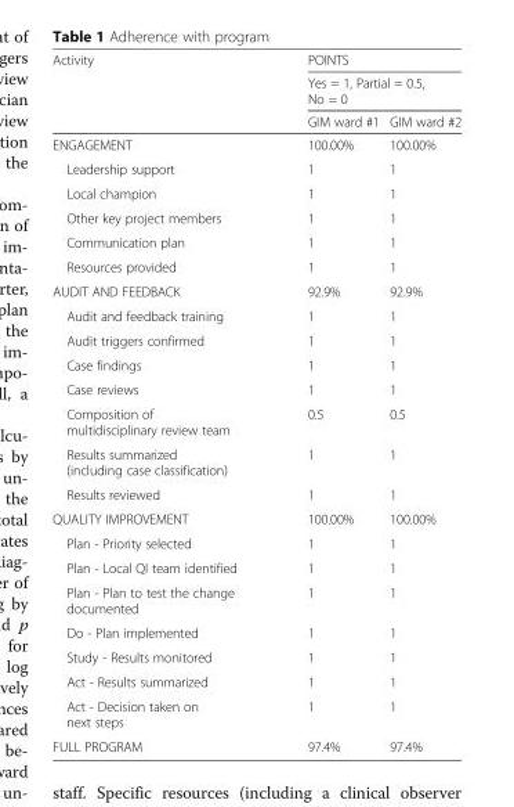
<table><thead><tr><td rowspan="3">Activity</td><td rowspan="2" colspan="2">POINTS Yes = 1, Partial = 0.5, No = 0</td></tr><tr></tr><tr><td>GIM ward #1</td><td>GIM ward #2</td></tr></thead><tbody><tr><td>ENGAGEMENT</td><td>100.00%</td><td>100.00%</td></tr><tr><td>Leadership support</td><td>1</td><td>1</td></tr><tr><td>Local champion</td><td>1</td><td>1</td></tr><tr><td>Other key project members</td><td>1</td><td>1</td></tr><tr><td>Communication plan</td><td>1</td><td>1</td></tr><tr><td>Resources provided</td><td>1</td><td>1</td></tr><tr><td>AUDIT AND FEEDBACK</td><td>92.9%</td><td>92.9%</td></tr><tr><td>Audit and feedback training</td><td>1</td><td>1</td></tr><tr><td>Audit triggers confirmed</td><td>1</td><td>1</td></tr><tr><td>Case findings</td><td>1</td><td>1</td></tr><tr><td>Case reviews</td><td>1</td><td>1</td></tr><tr><td>Composition of multidisciplinary review team</td><td>0.5</td><td>0.5</td></tr><tr><td>Results summarized (including case classification)</td><td>1</td><td>1</td></tr><tr><td>Results reviewed</td><td>1</td><td>1</td></tr><tr><td>QUALITY IMPROVEMENT</td><td>100.00%</td><td>100.00%</td></tr><tr><td>Plan - Priority selected</td><td>1</td><td>1</td></tr><tr><td>Plan - Local QI team identified</td><td>1</td><td>1</td></tr><tr><td>Plan - Plan to test the change documented</td><td>1</td><td>1</td></tr><tr><td>Do - Plan implemented</td><td>1</td><td>1</td></tr><tr><td>Study - Results monitored</td><td>1</td><td>1</td></tr><tr><td>Act - Results summarized</td><td>1</td><td>1</td></tr><tr><td>Act - Decision taken on next steps</td><td>1</td><td>1</td></tr><tr><td>FULL PROGRAM</td><td>97.4%</td><td>97.4%</td></tr></tbody></table>